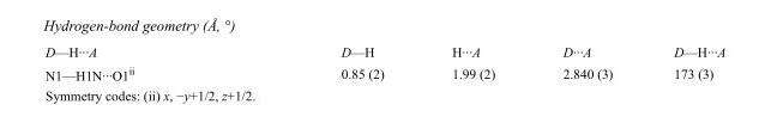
<table><tbody><tr><td>D—H···A</td><td>D—H</td><td>H···A</td><td>D···A</td><td>D—H···A</td></tr><tr><td>N1—H1N···O1<sup>ii</sup></td><td>0.85 (2)</td><td>1.99 (2)</td><td>2.840 (3)</td><td>173 (3)</td></tr></tbody></table>